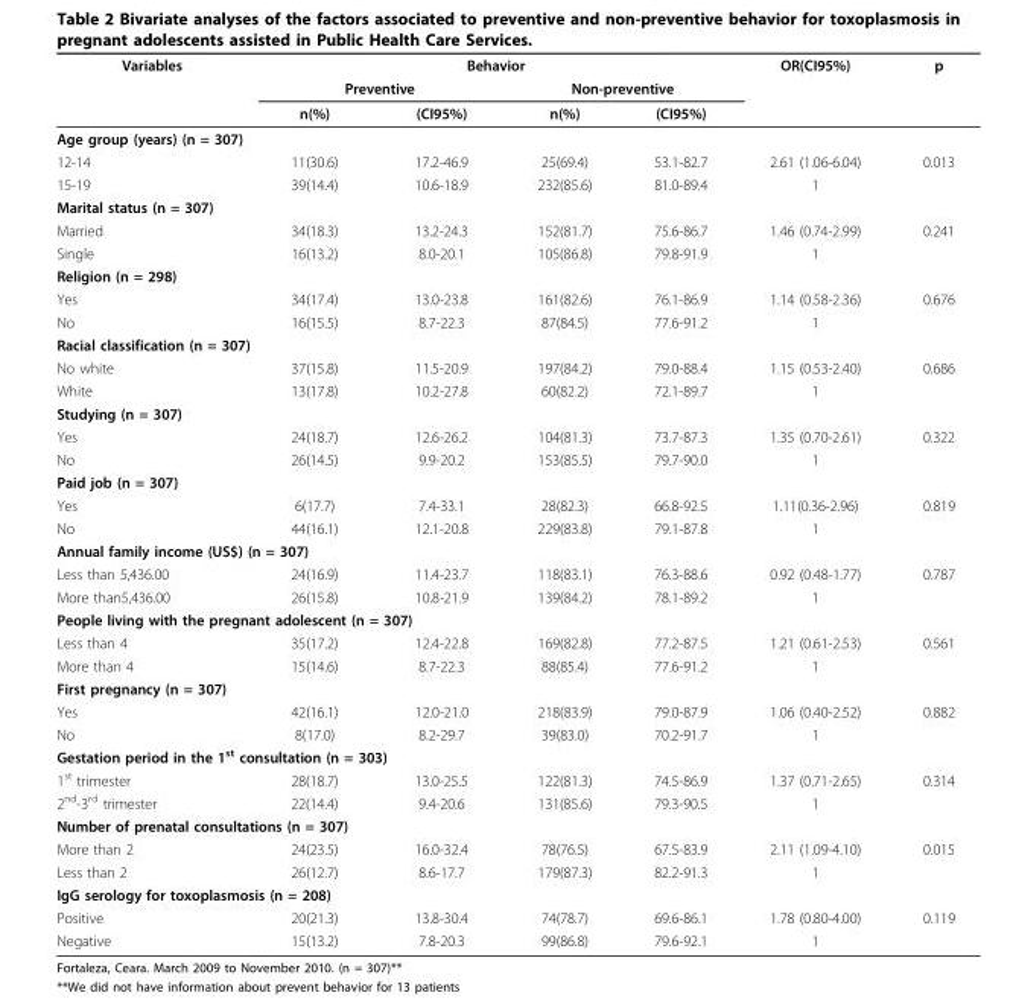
<table><thead><tr><td rowspan="3">Variables</td><td colspan="4">Behavior</td><td rowspan="3">OR(CI95%)</td><td rowspan="3">p</td></tr><tr><td colspan="2">Preventive</td><td colspan="2">Non-preventive</td></tr><tr><td>n(%)</td><td>(CI95%)</td><td>n(%)</td><td>(CI95%)</td></tr></thead><tbody><tr><td colspan="7">Age group (years) (n = 307)</td></tr><tr><td>12-14</td><td>11(30.6)</td><td>17.2-46.9</td><td>25(69.4)</td><td>53.1-82.7</td><td>2.61 (1.06-6.04)</td><td>0.013</td></tr><tr><td>15-19</td><td>39(14.4)</td><td>10.6-18.9</td><td>232(85.6)</td><td>81.0-89.4</td><td>1</td><td></td></tr><tr><td colspan="7">Marital status (n = 307)</td></tr><tr><td>Married</td><td>34(18.3)</td><td>13.2-24.3</td><td>152(81.7)</td><td>75.6-86.7</td><td>1.46 (0.74-2.99)</td><td>0.241</td></tr><tr><td>Single</td><td>16(13.2)</td><td>8.0-20.1</td><td>105(86.8)</td><td>79.8-91.9</td><td>1</td><td></td></tr><tr><td colspan="7">Religion (n = 298)</td></tr><tr><td>Yes</td><td>34(17.4)</td><td>13.0-23.8</td><td>161(82.6)</td><td>76.1-86.9</td><td>1.14 (0.58-2.36)</td><td>0.676</td></tr><tr><td>No</td><td>16(15.5)</td><td>8.7-22.3</td><td>87(84.5)</td><td>77.6-91.2</td><td>1</td><td></td></tr><tr><td colspan="7">Racial classification (n = 307)</td></tr><tr><td>No white</td><td>37(15.8)</td><td>11.5-20.9</td><td>197(84.2)</td><td>79.0-88.4</td><td>1.15 (0.53-2.40)</td><td>0.686</td></tr><tr><td>White</td><td>13(17.8)</td><td>10.2-27.8</td><td>60(82.2)</td><td>72.1-89.7</td><td>1</td><td></td></tr><tr><td colspan="7">Studying (n = 307)</td></tr><tr><td>Yes</td><td>24(18.7)</td><td>12.6-26.2</td><td>104(81.3)</td><td>73.7-87.3</td><td>1.35 (0.70-2.61)</td><td>0.322</td></tr><tr><td>No</td><td>26(14.5)</td><td>9.9-20.2</td><td>153(85.5)</td><td>79.7-90.0</td><td>1</td><td></td></tr><tr><td colspan="7">Paid job (n = 307)</td></tr><tr><td>Yes</td><td>6(17.7)</td><td>7.4-33.1</td><td>28(82.3)</td><td>66.8-92.5</td><td>1.11(0.36-2.96)</td><td>0.819</td></tr><tr><td>No</td><td>44(16.1)</td><td>12.1-20.8</td><td>229(83.8)</td><td>79.1-87.8</td><td>1</td><td></td></tr><tr><td colspan="7">Annual family income (US$) (n = 307)</td></tr><tr><td>Less than 5,436.00</td><td>24(16.9)</td><td>11.4-23.7</td><td>118(83.1)</td><td>76.3-88.6</td><td>0.92 (0.48-1.77)</td><td>0.787</td></tr><tr><td>More than5,436.00</td><td>26(15.8)</td><td>10.8-21.9</td><td>139(84.2)</td><td>78.1-89.2</td><td>1</td><td></td></tr><tr><td colspan="7">People living with the pregnant adolescent (n = 307)</td></tr><tr><td>Less than 4</td><td>35(17.2)</td><td>12.4-22.8</td><td>169(82.8)</td><td>77.2-87.5</td><td>1.21 (0.61-2.53)</td><td>0.561</td></tr><tr><td>More than 4</td><td>15(14.6)</td><td>8.7-22.3</td><td>88(85.4)</td><td>77.6-91.2</td><td>1</td><td></td></tr><tr><td colspan="7">First pregnancy (n = 307)</td></tr><tr><td>Yes</td><td>42(16.1)</td><td>12.0-21.0</td><td>218(83.9)</td><td>79.0-87.9</td><td>1.06 (0.40-2.52)</td><td>0.882</td></tr><tr><td>No</td><td>8(17.0)</td><td>8.2-29.7</td><td>39(83.0)</td><td>70.2-91.7</td><td>1</td><td></td></tr><tr><td colspan="7">Gestation period in the 1<sup>st</sup> consultation (n = 303)</td></tr><tr><td>1<sup>st</sup> trimester</td><td>28(18.7)</td><td>13.0-25.5</td><td>122(81.3)</td><td>74.5-86.9</td><td>1.37 (0.71-2.65)</td><td>0.314</td></tr><tr><td>2<sup>nd</sup>-3<sup>rd</sup> trimester</td><td>22(14.4)</td><td>9.4-20.6</td><td>131(85.6)</td><td>79.3-90.5</td><td>1</td><td></td></tr><tr><td colspan="7">Number of prenatal consultations (n = 307)</td></tr><tr><td>More than 2</td><td>24(23.5)</td><td>16.0-32.4</td><td>78(76.5)</td><td>67.5-83.9</td><td>2.11 (1.09-4.10)</td><td>0.015</td></tr><tr><td>Less than 2</td><td>26(12.7)</td><td>8.6-17.7</td><td>179(87.3)</td><td>82.2-91.3</td><td>1</td><td></td></tr><tr><td colspan="7">IgG serology for toxoplasmosis (n = 208)</td></tr><tr><td>Positive</td><td>20(21.3)</td><td>13.8-30.4</td><td>74(78.7)</td><td>69.6-86.1</td><td>1.78 (0.80-4.00)</td><td>0.119</td></tr><tr><td>Negative</td><td>15(13.2)</td><td>7.8-20.3</td><td>99(86.8)</td><td>79.6-92.1</td><td>1</td><td></td></tr></tbody></table>